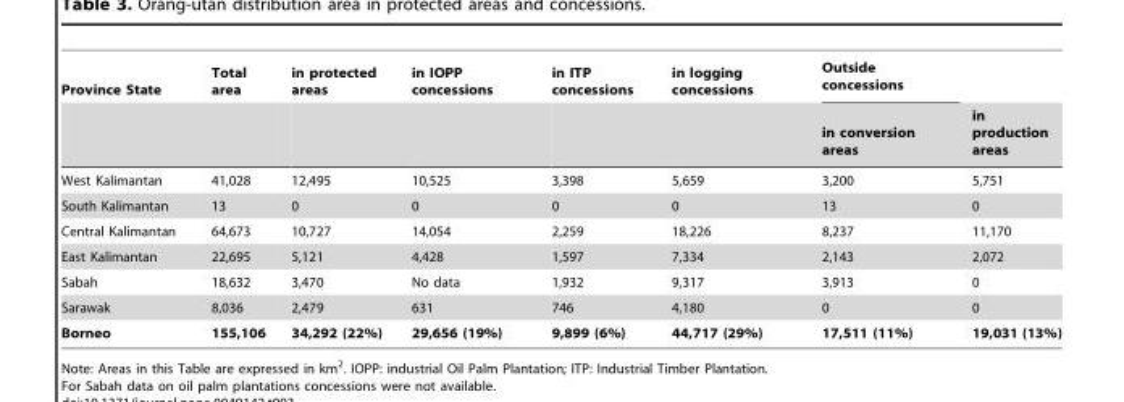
<table><thead><tr><td rowspan="2">Province State</td><td rowspan="2">Total area</td><td rowspan="2">in protected areas</td><td rowspan="2">in IOPP concessions</td><td rowspan="2">in ITP concessions</td><td rowspan="2">in logging concessions</td><td rowspan="2">Outside concessions in conversion areas</td><td rowspan="2">in production areas</td></tr><tr></tr></thead><tbody><tr><td>West Kalimantan</td><td>41,028</td><td>12,495</td><td>10,525</td><td>3,398</td><td>5,659</td><td>3,200</td><td>5,751</td></tr><tr><td>South Kalimantan</td><td>13</td><td>0</td><td>0</td><td>0</td><td>0</td><td>13</td><td>0</td></tr><tr><td>Central Kalimantan</td><td>64,673</td><td>10,727</td><td>14,054</td><td>2,259</td><td>18,226</td><td>8,237</td><td>11,170</td></tr><tr><td>East Kalimantan</td><td>22,695</td><td>5,121</td><td>4,428</td><td>1,597</td><td>7,334</td><td>2,143</td><td>2,072</td></tr><tr><td>Sabah</td><td>18,632</td><td>3,470</td><td>No data</td><td>1,932</td><td>9,317</td><td>3,913</td><td>0</td></tr><tr><td>Sarawak</td><td>8,036</td><td>2,479</td><td>631</td><td>746</td><td>4,180</td><td>0</td><td>0</td></tr><tr><td>Borneo</td><td>155,106</td><td>34,292 (22%)</td><td>29,656 (19%)</td><td>9,899 (6%)</td><td>44,717 (29%)</td><td>17,511 (11%)</td><td>19,031 (13%)</td></tr></tbody></table>